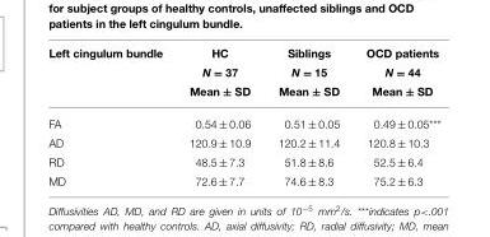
<table><thead><tr><td>Left cingulum bundle</td><td>HC N = 37 Mean ± SD</td><td>Siblings N = 15 Mean ± SD</td><td>OCD patients N = 44 Mean ± SD</td></tr></thead><tbody><tr><td>FA</td><td>0.54 ± 0.06</td><td>0.51 ± 0.05</td><td>0.49 ± 0.05***</td></tr><tr><td>AD</td><td>120.9 ± 10.9</td><td>120.2 ± 11.4</td><td>120.8 ± 10.3</td></tr><tr><td>RD</td><td>48.5 ± 7.3</td><td>51.8 ± 8.6</td><td>52.5 ± 6.4</td></tr><tr><td>MD</td><td>72.6 ± 7.7</td><td>74.6 ± 8.3</td><td>75.2 ± 6.3</td></tr></tbody></table>